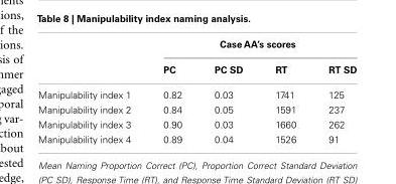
<table><thead><tr><td rowspan="2"></td><td colspan="4">Case AA’s scores</td></tr><tr><td>PC</td><td>PC SD</td><td>RT</td><td>RT SD</td></tr></thead><tbody><tr><td>Manipulability index 1</td><td>0.82</td><td>0.03</td><td>1741</td><td>125</td></tr><tr><td>Manipulability index 2</td><td>0.84</td><td>0.05</td><td>1591</td><td>237</td></tr><tr><td>Manipulability index 3</td><td>0.90</td><td>0.03</td><td>1660</td><td>262</td></tr><tr><td>Manipulability index 4</td><td>0.89</td><td>0.04</td><td>1526</td><td>91</td></tr></tbody></table>